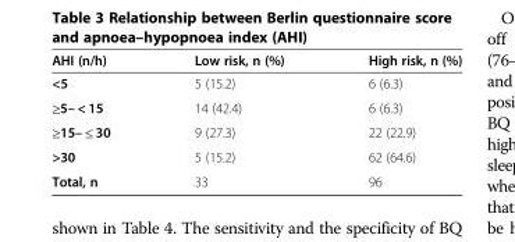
<table><thead><tr><td>AHI (n/h)</td><td>Low risk, n (%)</td><td>High risk, n (%)</td></tr></thead><tbody><tr><td>&lt;5</td><td>5 (15.2)</td><td>6 (6.3)</td></tr><tr><td>≥5– &lt; 15</td><td>14 (42.4)</td><td>6 (6.3)</td></tr><tr><td>≥15– ≤ 30</td><td>9 (27.3)</td><td>22 (22.9)</td></tr><tr><td>&gt;30</td><td>5 (15.2)</td><td>62 (64.6)</td></tr><tr><td>Total, n</td><td>33</td><td>96</td></tr></tbody></table>